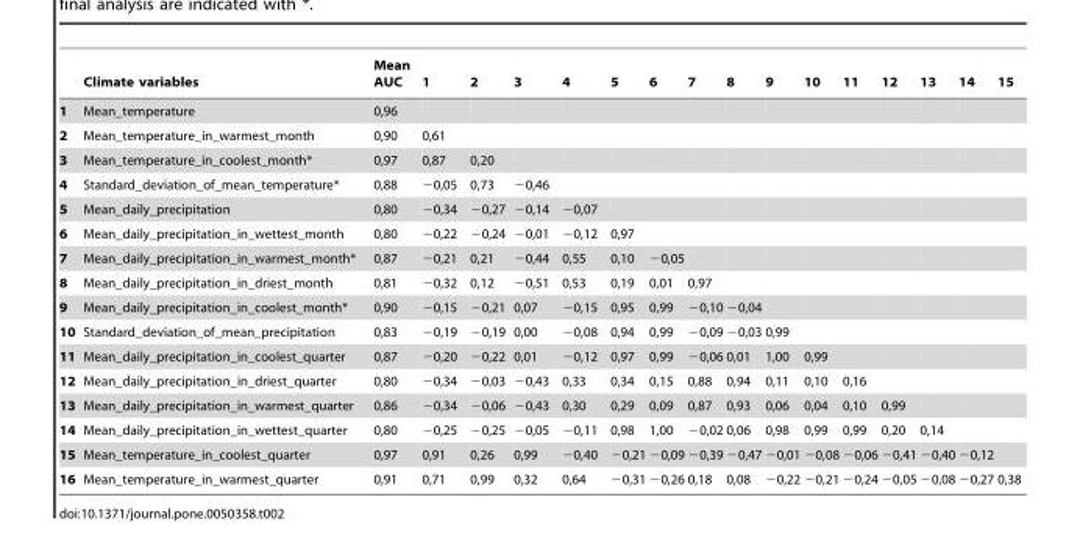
<table><thead><tr><td></td><td>Climate variables</td><td>Mean AUC</td><td>1</td><td>2</td><td>3</td><td>4</td><td>5</td><td>6</td><td>7</td><td>8</td><td>9</td><td>10</td><td>11</td><td>12</td><td>13</td><td>14</td><td>15</td></tr></thead><tbody><tr><td>1</td><td>Mean_temperature</td><td>0,96</td><td></td><td></td><td></td><td></td><td></td><td></td><td></td><td></td><td></td><td></td><td></td><td></td><td></td><td></td><td></td></tr><tr><td>2</td><td>Mean_temperature_in_warmest_month</td><td>0,90</td><td>0,61</td><td></td><td></td><td></td><td></td><td></td><td></td><td></td><td></td><td></td><td></td><td></td><td></td><td></td><td></td></tr><tr><td>3</td><td>Mean_temperature_in_coolest_month*</td><td>0,97</td><td>0,87</td><td>0,20</td><td></td><td></td><td></td><td></td><td></td><td></td><td></td><td></td><td></td><td></td><td></td><td></td><td></td></tr><tr><td>4</td><td>Standard_deviation_of_mean_temperature*</td><td>0,88</td><td>−0,05</td><td>0,73</td><td>−0,46</td><td></td><td></td><td></td><td></td><td></td><td></td><td></td><td></td><td></td><td></td><td></td><td></td></tr><tr><td>5</td><td>Mean_daily_precipitation</td><td>0,80</td><td>−0,34</td><td>−0,27</td><td>−0,14</td><td>−0,07</td><td></td><td></td><td></td><td></td><td></td><td></td><td></td><td></td><td></td><td></td><td></td></tr><tr><td>6</td><td>Mean_daily_precipitation_in_wettest_month</td><td>0,80</td><td>−0,22</td><td>−0,24</td><td>−0,01</td><td>−0,12</td><td>0,97</td><td></td><td></td><td></td><td></td><td></td><td></td><td></td><td></td><td></td><td></td></tr><tr><td>7</td><td>Mean_daily_precipitation_in_warmest_month*</td><td>0,87</td><td>−0,21</td><td>0,21</td><td>−0,44</td><td>0,55</td><td>0,10</td><td>−0,05</td><td></td><td></td><td></td><td></td><td></td><td></td><td></td><td></td><td></td></tr><tr><td>8</td><td>Mean_daily_precipitation_in_driest_month</td><td>0,81</td><td>−0,32</td><td>0,12</td><td>−0,51</td><td>0,53</td><td>0,19</td><td>0,01</td><td>0,97</td><td></td><td></td><td></td><td></td><td></td><td></td><td></td><td></td></tr><tr><td>9</td><td>Mean_daily_precipitation_in_coolest_month*</td><td>0,90</td><td>−0,15</td><td>−0,21</td><td>0,07</td><td>−0,15</td><td>0,95</td><td>0,99</td><td>−0,10</td><td>−0,04</td><td></td><td></td><td></td><td></td><td></td><td></td><td></td></tr><tr><td>10</td><td>Standard_deviation_of_mean_precipitation</td><td>0,83</td><td>−0,19</td><td>−0,19</td><td>0,00</td><td>−0,08</td><td>0,94</td><td>0,99</td><td>−0,09</td><td>−0,03</td><td>0,99</td><td></td><td></td><td></td><td></td><td></td><td></td></tr><tr><td>11</td><td>Mean_daily_precipitation_in_coolest_quarter</td><td>0,87</td><td>−0,20</td><td>−0,22</td><td>0,01</td><td>−0,12</td><td>0,97</td><td>0,99</td><td>−0,06</td><td>0,01</td><td>1,00</td><td>0,99</td><td></td><td></td><td></td><td></td><td></td></tr><tr><td>12</td><td>Mean_daily_precipitation_in_driest_quarter</td><td>0,80</td><td>−0,34</td><td>−0,03</td><td>−0,43</td><td>0,33</td><td>0,34</td><td>0,15</td><td>0,88</td><td>0,94</td><td>0,11</td><td>0,10</td><td>0,16</td><td></td><td></td><td></td><td></td></tr><tr><td>13</td><td>Mean_daily_precipitation_in_warmest_quarter</td><td>0,86</td><td>−0,34</td><td>−0,06</td><td>−0,43</td><td>0,30</td><td>0,29</td><td>0,09</td><td>0,87</td><td>0,93</td><td>0,06</td><td>0,04</td><td>0,10</td><td>0,99</td><td></td><td></td><td></td></tr><tr><td>14</td><td>Mean_daily_precipitation_in_wettest_quarter</td><td>0,80</td><td>−0,25</td><td>−0,25</td><td>−0,05</td><td>−0,11</td><td>0,98</td><td>1,00</td><td>−0,02</td><td>0,06</td><td>0,98</td><td>0,99</td><td>0,99</td><td>0,20</td><td>0,14</td><td></td><td></td></tr><tr><td>15</td><td>Mean_temperature_in_coolest_quarter</td><td>0,97</td><td>0,91</td><td>0,26</td><td>0,99</td><td>−0,40</td><td>−0,21</td><td>−0,09</td><td>−0,39</td><td>−0,47</td><td>−0,01</td><td>−0,08</td><td>−0,06</td><td>−0,41</td><td>−0,40</td><td>−0,12</td><td></td></tr><tr><td>16</td><td>Mean_temperature_in_warmest_quarter</td><td>0,91</td><td>0,71</td><td>0,99</td><td>0,32</td><td>0,64</td><td>−0,31</td><td>−0,26</td><td>0,18</td><td>0,08</td><td>−0,22</td><td>−0,21</td><td>−0,24</td><td>−0,05</td><td>−0,08</td><td>−0,27</td><td>0,38</td></tr></tbody></table>